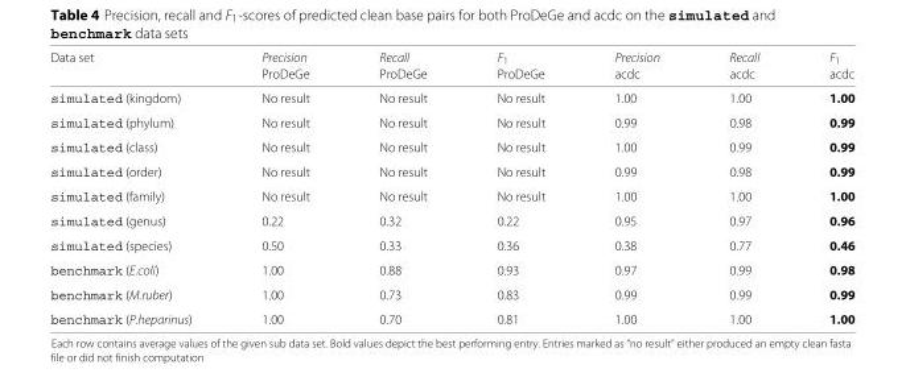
<table><thead><tr><td rowspan="2">Data set</td><td rowspan="2">Precision ProDeGe</td><td rowspan="2">Recall ProDeGe</td><td rowspan="2">F<sub>1</sub> ProDeGe</td><td rowspan="2">Precision acdc</td><td rowspan="2">Recall acdc</td><td rowspan="2">F<sub>1</sub> acdc</td></tr><tr></tr></thead><tbody><tr><td>simulated (kingdom)</td><td>No result</td><td>No result</td><td>No result</td><td>1.00</td><td>1.00</td><td>1.00</td></tr><tr><td>simulated (phylum)</td><td>No result</td><td>No result</td><td>No result</td><td>0.99</td><td>0.98</td><td>0.99</td></tr><tr><td>simulated (class)</td><td>No result</td><td>No result</td><td>No result</td><td>1.00</td><td>0.99</td><td>0.99</td></tr><tr><td>simulated (order)</td><td>No result</td><td>No result</td><td>No result</td><td>0.99</td><td>0.98</td><td>0.99</td></tr><tr><td>simulated (family)</td><td>No result</td><td>No result</td><td>No result</td><td>1.00</td><td>1.00</td><td>1.00</td></tr><tr><td>simulated (genus)</td><td>0.22</td><td>0.32</td><td>0.22</td><td>0.95</td><td>0.97</td><td>0.96</td></tr><tr><td>simulated (species)</td><td>0.50</td><td>0.33</td><td>0.36</td><td>0.38</td><td>0.77</td><td>0.46</td></tr><tr><td>benchmark (E.coli)</td><td>1.00</td><td>0.88</td><td>0.93</td><td>0.97</td><td>0.99</td><td>0.98</td></tr><tr><td>benchmark (M.ruber)</td><td>1.00</td><td>0.73</td><td>0.83</td><td>0.99</td><td>0.99</td><td>0.99</td></tr><tr><td>benchmark (P.heparinus)</td><td>1.00</td><td>0.70</td><td>0.81</td><td>1.00</td><td>1.00</td><td>1.00</td></tr></tbody></table>